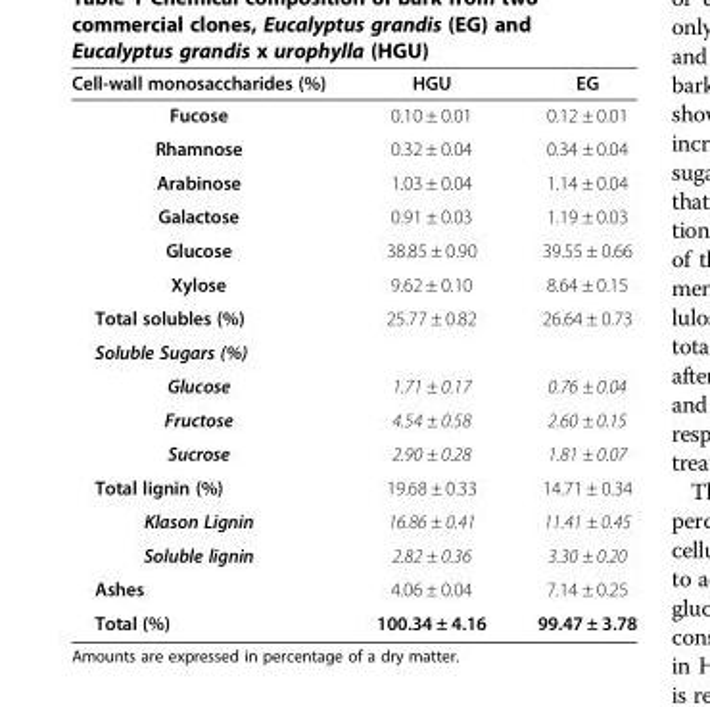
<table><thead><tr><td>Cell-wall monosaccharides (%)</td><td>HGU</td><td>EG</td></tr></thead><tbody><tr><td>Fucose</td><td>0.10 ± 0.01</td><td>0.12 ± 0.01</td></tr><tr><td>Rhamnose</td><td>0.32 ± 0.04</td><td>0.34 ± 0.04</td></tr><tr><td>Arabinose</td><td>1.03 ± 0.04</td><td>1.14 ± 0.04</td></tr><tr><td>Galactose</td><td>0.91 ± 0.03</td><td>1.19 ± 0.03</td></tr><tr><td>Glucose</td><td>38.85 ± 0.90</td><td>39.55 ± 0.66</td></tr><tr><td>Xylose</td><td>9.62 ± 0.10</td><td>8.64 ± 0.15</td></tr><tr><td>Total solubles (%)</td><td>25.77 ± 0.82</td><td>26.64 ± 0.73</td></tr><tr><td colspan="3">Soluble Sugars (%)</td></tr><tr><td>Glucose</td><td>1.71 ± 0.17</td><td>0.76 ± 0.04</td></tr><tr><td>Fructose</td><td>4.54 ± 0.58</td><td>2.60 ± 0.15</td></tr><tr><td>Sucrose</td><td>2.90 ± 0.28</td><td>1.81 ± 0.07</td></tr><tr><td>Total lignin (%)</td><td>19.68 ± 0.33</td><td>14.71 ± 0.34</td></tr><tr><td>Klason Lignin</td><td>16.86 ± 0.41</td><td>11.41 ± 0.45</td></tr><tr><td>Soluble lignin</td><td>2.82 ± 0.36</td><td>3.30 ± 0.20</td></tr><tr><td>Ashes</td><td>4.06 ± 0.04</td><td>7.14 ± 0.25</td></tr><tr><td>Total (%)</td><td>100.34 ± 4.16</td><td>99.47 ± 3.78</td></tr></tbody></table>